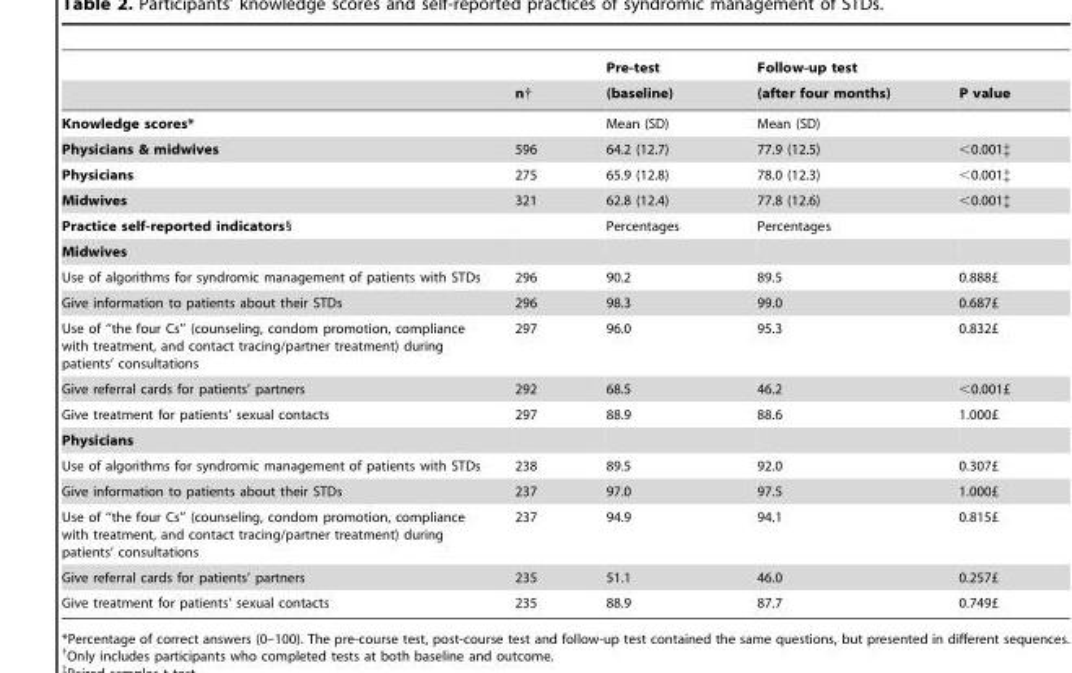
<table><thead><tr><td rowspan="2"></td><td rowspan="2">n†</td><td rowspan="2">Pre-test (baseline)</td><td rowspan="2">Follow-up test (after four months)</td><td rowspan="2">P value</td></tr><tr></tr></thead><tbody><tr><td>Knowledge scores*</td><td></td><td>Mean (SD)</td><td>Mean (SD)</td><td></td></tr><tr><td>Physicians &amp; midwives</td><td>596</td><td>64.2 (12.7)</td><td>77.9 (12.5)</td><td>&lt;0.001‡</td></tr><tr><td>Physicians</td><td>275</td><td>65.9 (12.8)</td><td>78.0 (12.3)</td><td>&lt;0.001‡</td></tr><tr><td>Midwives</td><td>321</td><td>62.8 (12.4)</td><td>77.8 (12.6)</td><td>&lt;0.001‡</td></tr><tr><td>Practice self-reported indicators§</td><td></td><td>Percentages</td><td>Percentages</td><td></td></tr><tr><td colspan="5">Midwives</td></tr><tr><td>Use of algorithms for syndromic management of patients with STDs</td><td>296</td><td>90.2</td><td>89.5</td><td>0.888£</td></tr><tr><td>Give information to patients about their STDs</td><td>296</td><td>98.3</td><td>99.0</td><td>0.687£</td></tr><tr><td>Use of ‘‘the four Cs’’ (counseling, condom promotion, compliance with treatment, and contact tracing/partner treatment) during patients’ consultations</td><td>297</td><td>96.0</td><td>95.3</td><td>0.832£</td></tr><tr><td>Give referral cards for patients’ partners</td><td>292</td><td>68.5</td><td>46.2</td><td>&lt;0.001£</td></tr><tr><td>Give treatment for patients’ sexual contacts</td><td>297</td><td>88.9</td><td>88.6</td><td>1.000£</td></tr><tr><td colspan="5">Physicians</td></tr><tr><td>Use of algorithms for syndromic management of patients with STDs</td><td>238</td><td>89.5</td><td>92.0</td><td>0.307£</td></tr><tr><td>Give information to patients about their STDs</td><td>237</td><td>97.0</td><td>97.5</td><td>1.000£</td></tr><tr><td>Use of ‘‘the four Cs’’ (counseling, condom promotion, compliance with treatment, and contact tracing/partner treatment) during patients’ consultations</td><td>237</td><td>94.9</td><td>94.1</td><td>0.815£</td></tr><tr><td>Give referral cards for patients’ partners</td><td>235</td><td>51.1</td><td>46.0</td><td>0.257£</td></tr><tr><td>Give treatment for patients’ sexual contacts</td><td>235</td><td>88.9</td><td>87.7</td><td>0.749£</td></tr></tbody></table>